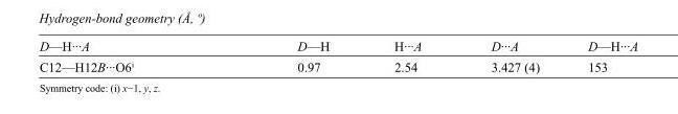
<table><tbody><tr><td>D—H···A</td><td>D—H</td><td>H···A</td><td>D···A</td><td>D—H···A</td></tr><tr><td>C12—H12B···O6<sup>i</sup></td><td>0.97</td><td>2.54</td><td>3.427 (4)</td><td>153</td></tr></tbody></table>